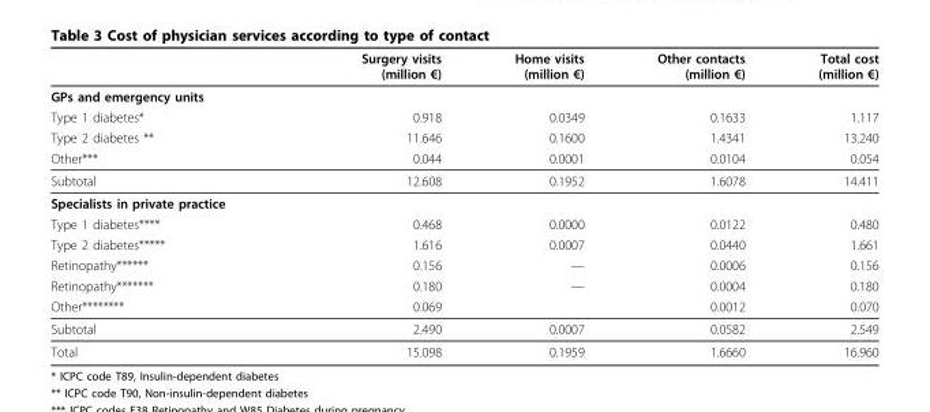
<table><thead><tr><td></td><td>Surgery visits (million €)</td><td>Home visits (million €)</td><td>Other contacts (million €)</td><td>Total cost (million €)</td></tr></thead><tbody><tr><td colspan="5">GPs and emergency units</td></tr><tr><td>Type 1 diabetes*</td><td>0.918</td><td>0.0349</td><td>0.1633</td><td>1.117</td></tr><tr><td>Type 2 diabetes **</td><td>11.646</td><td>0.1600</td><td>1.4341</td><td>13.240</td></tr><tr><td>Other***</td><td>0.044</td><td>0.0001</td><td>0.0104</td><td>0.054</td></tr><tr><td>Subtotal</td><td>12.608</td><td>0.1952</td><td>1.6078</td><td>14.411</td></tr><tr><td colspan="5">Specialists in private practice</td></tr><tr><td>Type 1 diabetes****</td><td>0.468</td><td>0.0000</td><td>0.0122</td><td>0.480</td></tr><tr><td>Type 2 diabetes*****</td><td>1.616</td><td>0.0007</td><td>0.0440</td><td>1.661</td></tr><tr><td>Retinopathy******</td><td>0.156</td><td>—</td><td>0.0006</td><td>0.156</td></tr><tr><td>Retinopathy*******</td><td>0.180</td><td>—</td><td>0.0004</td><td>0.180</td></tr><tr><td>Other********</td><td>0.069</td><td></td><td>0.0012</td><td>0.070</td></tr><tr><td>Subtotal</td><td>2.490</td><td>0.0007</td><td>0.0582</td><td>2.549</td></tr><tr><td>Total</td><td>15.098</td><td>0.1959</td><td>1.6660</td><td>16.960</td></tr></tbody></table>